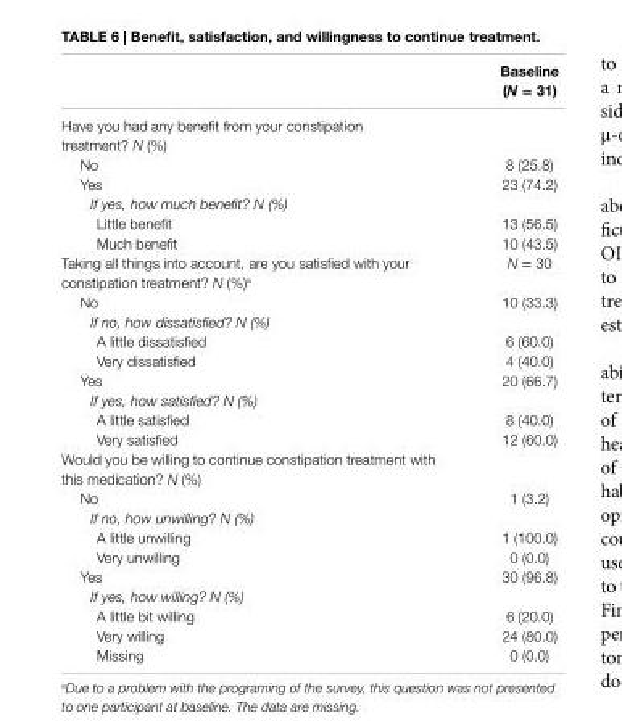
<table><thead><tr><td></td><td>Baseline (N = 31)</td></tr></thead><tbody><tr><td colspan="2">Have you had any benefit from your constipation treatment? N (%)</td></tr><tr><td>No</td><td>8 (25.8)</td></tr><tr><td>Yes</td><td>23 (74.2)</td></tr><tr><td colspan="2">If yes, how much benefit? N (%)</td></tr><tr><td>Little benefit</td><td>13 (56.5)</td></tr><tr><td>Much benefit</td><td>10 (43.5)</td></tr><tr><td>Taking all things into account, are you satisfied with your constipation treatment? N (%)<sup>a</sup></td><td>N = 30</td></tr><tr><td>No</td><td>10 (33.3)</td></tr><tr><td colspan="2">If no, how dissatisfied? N (%)</td></tr><tr><td>A little dissatisfied</td><td>6 (60.0)</td></tr><tr><td>Very dissatisfied</td><td>4 (40.0)</td></tr><tr><td>Yes</td><td>20 (66.7)</td></tr><tr><td colspan="2">If yes, how satisfied? N (%)</td></tr><tr><td>A little satisfied</td><td>8 (40.0)</td></tr><tr><td>Very satisfied</td><td>12 (60.0)</td></tr><tr><td colspan="2">Would you be willing to continue constipation treatment with this medication? N (%)</td></tr><tr><td>No</td><td>1 (3.2)</td></tr><tr><td colspan="2">If no, how unwilling? N (%)</td></tr><tr><td>A little unwilling</td><td>1 (100.0)</td></tr><tr><td>Very unwilling</td><td>0 (0.0)</td></tr><tr><td>Yes</td><td>30 (96.8)</td></tr><tr><td colspan="2">If yes, how willing? N (%)</td></tr><tr><td>A little bit willing</td><td>6 (20.0)</td></tr><tr><td>Very willing</td><td>24 (80.0)</td></tr><tr><td>Missing</td><td>0 (0.0)</td></tr></tbody></table>